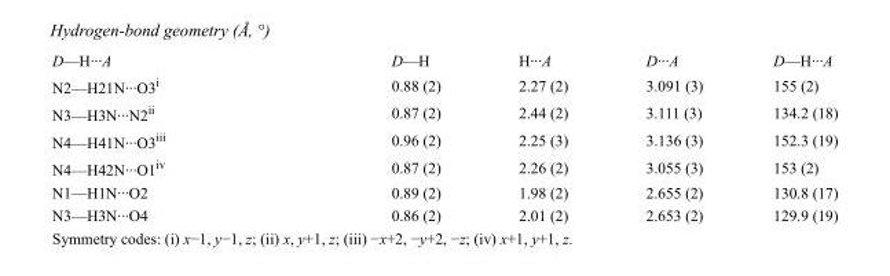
<table><tbody><tr><td>D—H···A</td><td>D—H</td><td>H···A</td><td>D···A</td><td>D—H···A</td></tr><tr><td>N2—H21N···O3<sup>i</sup></td><td>0.88 (2)</td><td>2.27 (2)</td><td>3.091 (3)</td><td>155 (2)</td></tr><tr><td>N3—H3N···N2<sup>ii</sup></td><td>0.87 (2)</td><td>2.44 (2)</td><td>3.111 (3)</td><td>134.2 (18)</td></tr><tr><td>N4—H41N···O3<sup>iii</sup></td><td>0.96 (2)</td><td>2.25 (3)</td><td>3.136 (3)</td><td>152.3 (19)</td></tr><tr><td>N4—H42N···O1<sup>iv</sup></td><td>0.87 (2)</td><td>2.26 (2)</td><td>3.055 (3)</td><td>153 (2)</td></tr><tr><td>N1—H1N···O2</td><td>0.89 (2)</td><td>1.98 (2)</td><td>2.655 (2)</td><td>130.8 (17)</td></tr><tr><td>N3—H3N···O4</td><td>0.86 (2)</td><td>2.01 (2)</td><td>2.653 (2)</td><td>129.9 (19)</td></tr></tbody></table>